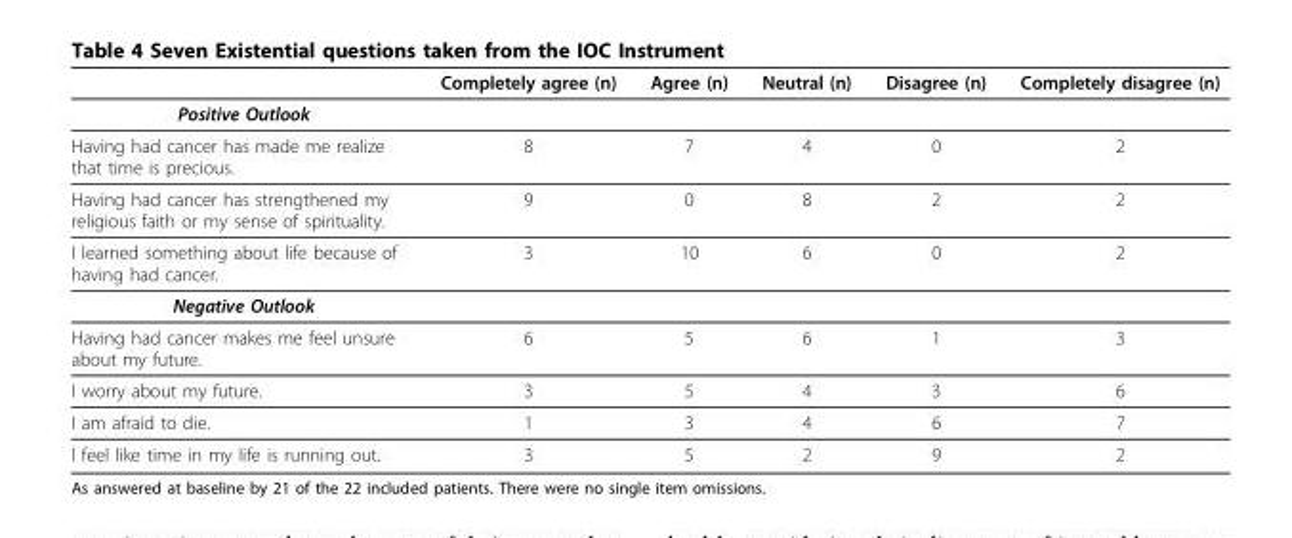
<table><thead><tr><td></td><td>Completely agree (n)</td><td>Agree (n)</td><td>Neutral (n)</td><td>Disagree (n)</td><td>Completely disagree (n)</td></tr></thead><tbody><tr><td colspan="6">Positive Outlook</td></tr><tr><td>Having had cancer has made me realize that time is precious.</td><td>8</td><td>7</td><td>4</td><td>0</td><td>2</td></tr><tr><td>Having had cancer has strengthened my religious faith or my sense of spirituality.</td><td>9</td><td>0</td><td>8</td><td>2</td><td>2</td></tr><tr><td>I learned something about life because of having had cancer.</td><td>3</td><td>10</td><td>6</td><td>0</td><td>2</td></tr><tr><td colspan="6">Negative Outlook</td></tr><tr><td>Having had cancer makes me feel unsure about my future.</td><td>6</td><td>5</td><td>6</td><td>1</td><td>3</td></tr><tr><td>I worry about my future.</td><td>3</td><td>5</td><td>4</td><td>3</td><td>6</td></tr><tr><td>I am afraid to die.</td><td>1</td><td>3</td><td>4</td><td>6</td><td>7</td></tr><tr><td>I feel like time in my life is running out.</td><td>3</td><td>5</td><td>2</td><td>9</td><td>2</td></tr></tbody></table>